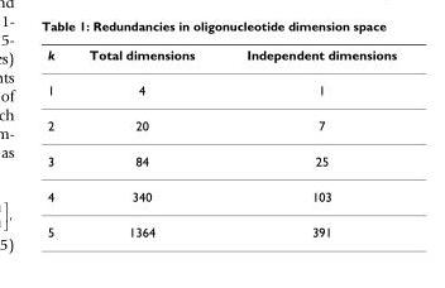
<table><thead><tr><td>k</td><td>Total dimensions</td><td>Independent dimensions</td></tr></thead><tbody><tr><td>1</td><td>4</td><td>1</td></tr><tr><td>2</td><td>20</td><td>7</td></tr><tr><td>3</td><td>84</td><td>25</td></tr><tr><td>4</td><td>340</td><td>103</td></tr><tr><td>5</td><td>1364</td><td>391</td></tr></tbody></table>